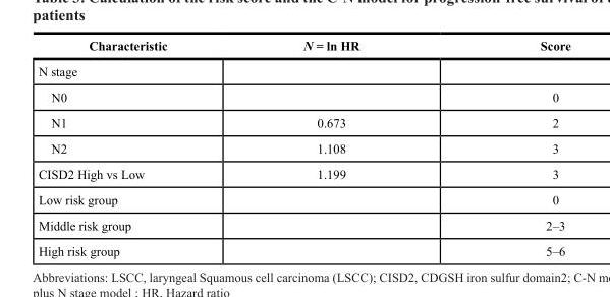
<table><thead><tr><td>Characteristic</td><td>N = ln HR</td><td>Score</td></tr></thead><tbody><tr><td colspan="3">N stage</td></tr><tr><td>N0</td><td></td><td>0</td></tr><tr><td>N1</td><td>0.673</td><td>2</td></tr><tr><td>N2</td><td>1.108</td><td>3</td></tr><tr><td>CISD2 High vs Low</td><td>1.199</td><td>3</td></tr><tr><td>Low risk group</td><td></td><td>0</td></tr><tr><td>Middle risk group</td><td></td><td>2–3</td></tr><tr><td>High risk group</td><td></td><td>5–6</td></tr></tbody></table>